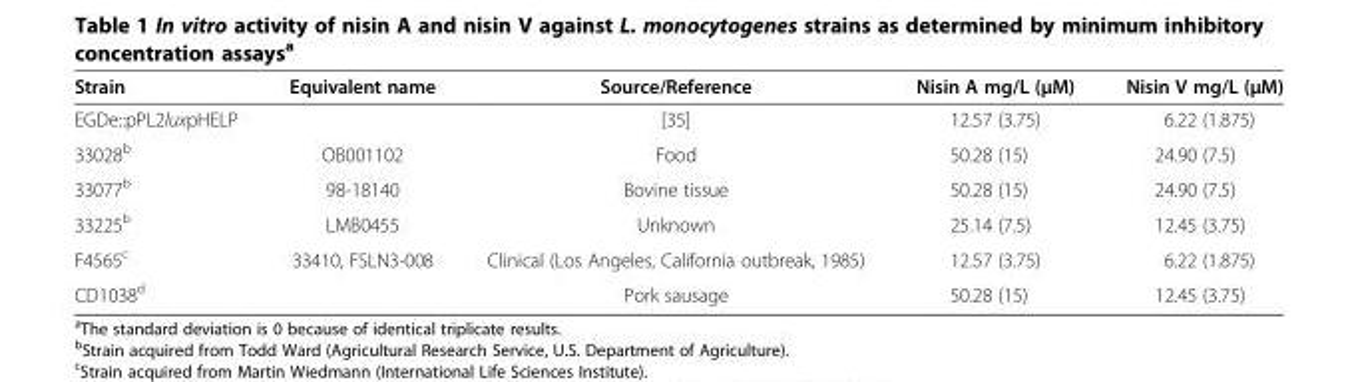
<table><thead><tr><td>Strain</td><td>Equivalent name</td><td>Source/Reference</td><td>Nisin A mg/L (μM)</td><td>Nisin V mg/L (μM)</td></tr></thead><tbody><tr><td>EGDe::pPL2luxpHELP</td><td></td><td>[35]</td><td>12.57 (3.75)</td><td>6.22 (1.875)</td></tr><tr><td>33028<sup>b</sup></td><td>OB001102</td><td>Food</td><td>50.28 (15)</td><td>24.90 (7.5)</td></tr><tr><td>33077<sup>b</sup></td><td>98-18140</td><td>Bovine tissue</td><td>50.28 (15)</td><td>24.90 (7.5)</td></tr><tr><td>33225<sup>b</sup></td><td>LMB0455</td><td>Unknown</td><td>25.14 (7.5)</td><td>12.45 (3.75)</td></tr><tr><td>F4565<sup>c</sup></td><td>33410, FSLN3-008</td><td>Clinical (Los Angeles, California outbreak, 1985)</td><td>12.57 (3.75)</td><td>6.22 (1.875)</td></tr><tr><td>CD1038<sup>d</sup></td><td></td><td>Pork sausage</td><td>50.28 (15)</td><td>12.45 (3.75)</td></tr></tbody></table>